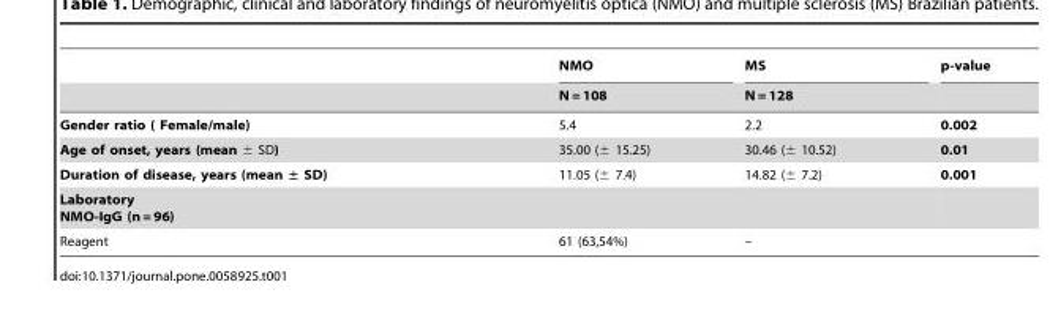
<table><thead><tr><td rowspan="2"></td><td rowspan="2">NMO N = 108</td><td rowspan="2">MS N = 128</td><td rowspan="2">p-value</td></tr><tr></tr></thead><tbody><tr><td>Gender ratio ( Female/male)</td><td>5.4</td><td>2.2</td><td>0.002</td></tr><tr><td>Age of onset, years (mean ± SD)</td><td>35.00 (± 15.25)</td><td>30.46 (± 10.52)</td><td>0.01</td></tr><tr><td>Duration of disease, years (mean ± SD)</td><td>11.05 (± 7.4)</td><td>14.82 (± 7.2)</td><td>0.001</td></tr><tr><td colspan="4">Laboratory NMO-IgG (n = 96)</td></tr><tr><td>Reagent</td><td>61 (63,54%)</td><td>–</td><td></td></tr></tbody></table>